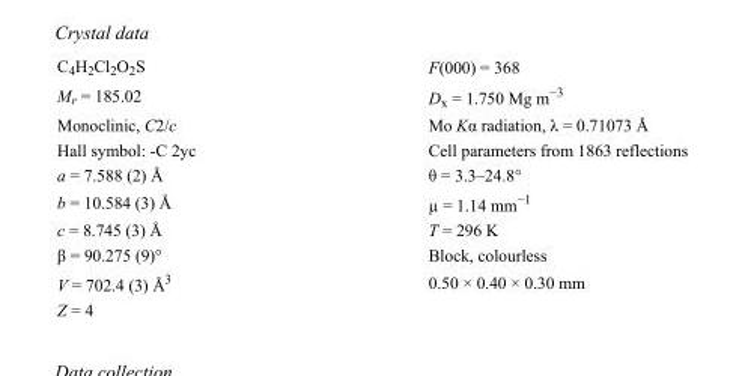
<table><tbody><tr><td>C<sub>4</sub>H<sub>2</sub>Cl<sub>2</sub>O<sub>2</sub>S</td><td>F(000) = 368</td></tr><tr><td>M<sub>r</sub> = 185.02</td><td>D<sub>x</sub> = 1.750 Mg m<sup>−3</sup></td></tr><tr><td>Monoclinic, C2/c</td><td>Mo Kα radiation, λ = 0.71073 Å</td></tr><tr><td>Hall symbol: -C 2yc</td><td>Cell parameters from 1863 reflections</td></tr><tr><td>a = 7.588 (2) Å</td><td>θ = 3.3–24.8°</td></tr><tr><td>b = 10.584 (3) Å</td><td>µ = 1.14 mm<sup>−1</sup></td></tr><tr><td>c = 8.745 (3) Å</td><td>T = 296 K</td></tr><tr><td>β = 90.275 (9)°</td><td>Block, colourless</td></tr><tr><td>V = 702.4 (3) Å<sup>3</sup></td><td>0.50 × 0.40 × 0.30 mm</td></tr><tr><td>Z = 4</td><td></td></tr></tbody></table>